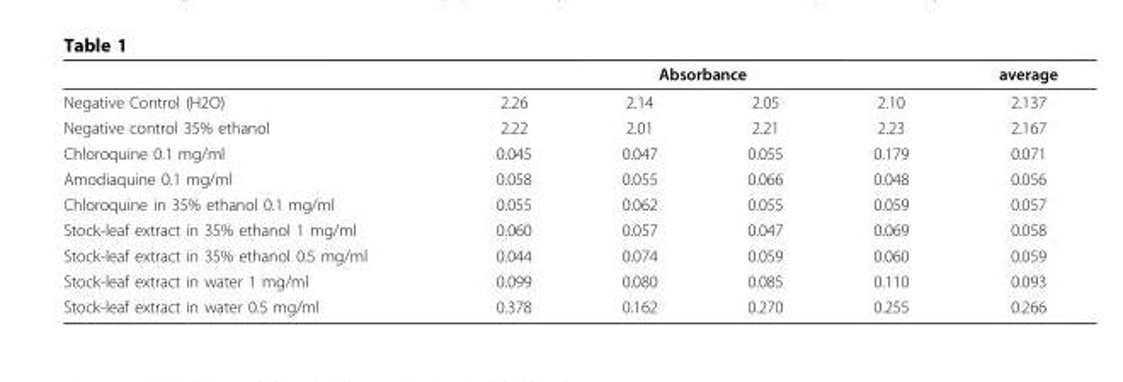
<table><thead><tr><td rowspan="2">Negative Control (H2O)</td><td colspan="4">Absorbance</td><td rowspan="2">average 2.137</td></tr><tr><td>2.26</td><td>2.14</td><td>2.05</td><td>2.10</td></tr></thead><tbody><tr><td>Negative control 35% ethanol</td><td>2.22</td><td>2.01</td><td>2.21</td><td>2.23</td><td>2.167</td></tr><tr><td>Chloroquine 0.1 mg/ml</td><td>0.045</td><td>0.047</td><td>0.055</td><td>0.179</td><td>0.071</td></tr><tr><td>Amodiaquine 0.1 mg/ml</td><td>0.058</td><td>0.055</td><td>0.066</td><td>0.048</td><td>0.056</td></tr><tr><td>Chloroquine in 35% ethanol 0.1 mg/ml</td><td>0.055</td><td>0.062</td><td>0.055</td><td>0.059</td><td>0.057</td></tr><tr><td>Stock-leaf extract in 35% ethanol 1 mg/ml</td><td>0.060</td><td>0.057</td><td>0.047</td><td>0.069</td><td>0.058</td></tr><tr><td>Stock-leaf extract in 35% ethanol 0.5 mg/ml</td><td>0.044</td><td>0.074</td><td>0.059</td><td>0.060</td><td>0.059</td></tr><tr><td>Stock-leaf extract in water 1 mg/ml</td><td>0.099</td><td>0.080</td><td>0.085</td><td>0.110</td><td>0.093</td></tr><tr><td>Stock-leaf extract in water 0.5 mg/ml</td><td>0.378</td><td>0.162</td><td>0.270</td><td>0.255</td><td>0.266</td></tr></tbody></table>